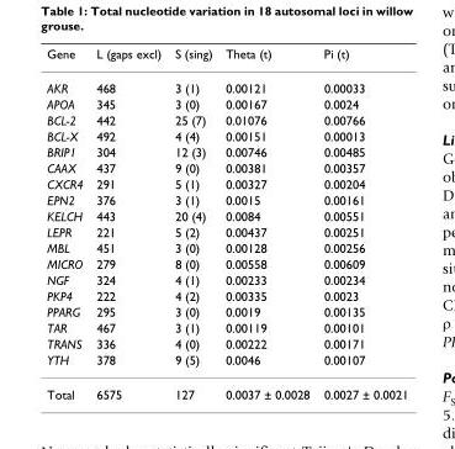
<table><thead><tr><td>Gene</td><td>L (gaps excl)</td><td>S (sing)</td><td>Theta (t)</td><td>Pi (t)</td></tr></thead><tbody><tr><td>AKR</td><td>468</td><td>3 (1)</td><td>0.00121</td><td>0.00033</td></tr><tr><td>APOA</td><td>345</td><td>3 (0)</td><td>0.00167</td><td>0.0024</td></tr><tr><td>BCL-2</td><td>442</td><td>25 (7)</td><td>0.01076</td><td>0.00766</td></tr><tr><td>BCL-X</td><td>492</td><td>4 (4)</td><td>0.00151</td><td>0.00013</td></tr><tr><td>BRIP1</td><td>304</td><td>12 (3)</td><td>0.00746</td><td>0.00485</td></tr><tr><td>CAAX</td><td>437</td><td>9 (0)</td><td>0.00381</td><td>0.00357</td></tr><tr><td>CXCR4</td><td>291</td><td>5 (1)</td><td>0.00327</td><td>0.00204</td></tr><tr><td>EPN2</td><td>376</td><td>3 (1)</td><td>0.0015</td><td>0.00161</td></tr><tr><td>KELCH</td><td>443</td><td>20 (4)</td><td>0.0084</td><td>0.00551</td></tr><tr><td>LEPR</td><td>221</td><td>5 (2)</td><td>0.00437</td><td>0.00251</td></tr><tr><td>MBL</td><td>451</td><td>3 (0)</td><td>0.00128</td><td>0.00256</td></tr><tr><td>MICRO</td><td>279</td><td>8 (0)</td><td>0.00558</td><td>0.00609</td></tr><tr><td>NGF</td><td>324</td><td>4 (1)</td><td>0.00233</td><td>0.00234</td></tr><tr><td>PKP4</td><td>222</td><td>4 (2)</td><td>0.00335</td><td>0.0023</td></tr><tr><td>PPARG</td><td>295</td><td>3 (0)</td><td>0.0019</td><td>0.00135</td></tr><tr><td>TAR</td><td>467</td><td>3 (1)</td><td>0.00119</td><td>0.00101</td></tr><tr><td>TRANS</td><td>336</td><td>4 (0)</td><td>0.00222</td><td>0.00171</td></tr><tr><td>YTH</td><td>378</td><td>9 (5)</td><td>0.0046</td><td>0.00107</td></tr><tr><td>Total</td><td>6575</td><td>127</td><td>0.0037 ± 0.0028</td><td>0.0027 ± 0.0021</td></tr></tbody></table>